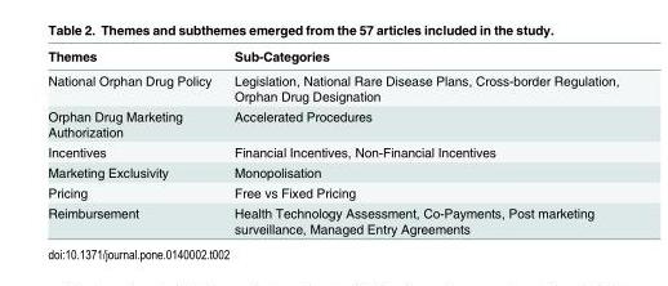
<table><thead><tr><td>Themes</td><td>Sub-Categories</td></tr></thead><tbody><tr><td>National Orphan Drug Policy</td><td>Legislation, National Rare Disease Plans, Cross-border Regulation, Orphan Drug Designation</td></tr><tr><td>Orphan Drug Marketing Authorization</td><td>Accelerated Procedures</td></tr><tr><td>Incentives</td><td>Financial Incentives, Non-Financial Incentives</td></tr><tr><td>Marketing Exclusivity</td><td>Monopolisation</td></tr><tr><td>Pricing</td><td>Free vs Fixed Pricing</td></tr><tr><td>Reimbursement</td><td>Health Technology Assessment, Co-Payments, Post marketing surveillance, Managed Entry Agreements</td></tr></tbody></table>